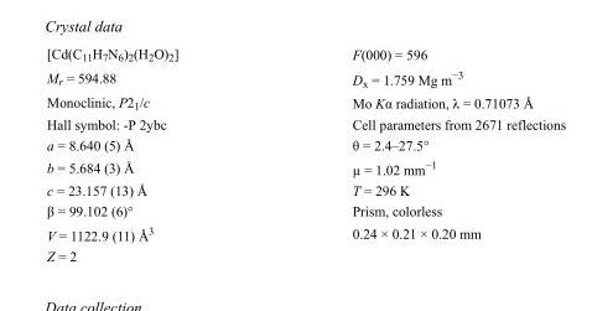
<table><tbody><tr><td>[Cd(C<sub>11</sub>H<sub>7</sub>N<sub>6</sub>)<sub>2</sub>(H<sub>2</sub>O)<sub>2</sub>]</td><td>F(000) = 596</td></tr><tr><td>M<sub>r</sub> = 594.88</td><td>D<sub>x</sub> = 1.759 Mg m<sup>−3</sup></td></tr><tr><td>Monoclinic, P2<sub>1</sub>/c</td><td>Mo Kα radiation, λ = 0.71073 Å</td></tr><tr><td>Hall symbol: -P 2ybc</td><td>Cell parameters from 2671 reflections</td></tr><tr><td>a = 8.640 (5) Å</td><td>θ = 2.4–27.5°</td></tr><tr><td>b = 5.684 (3) Å</td><td>µ = 1.02 mm<sup>−1</sup></td></tr><tr><td>c = 23.157 (13) Å</td><td>T = 296 K</td></tr><tr><td>β = 99.102 (6)°</td><td>Prism, colorless</td></tr><tr><td>V = 1122.9 (11) Å<sup>3</sup></td><td>0.24 × 0.21 × 0.20 mm</td></tr><tr><td>Z = 2</td><td></td></tr></tbody></table>